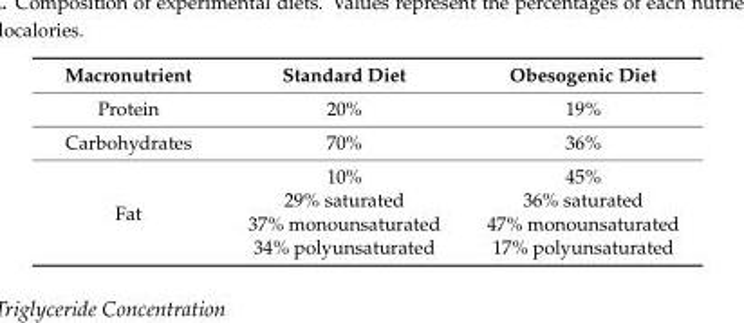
<table><thead><tr><td>Macronutrient</td><td>Standard Diet</td><td>Obesogenic Diet</td></tr></thead><tbody><tr><td>Protein</td><td>20%</td><td>19%</td></tr><tr><td>Carbohydrates</td><td>70%</td><td>36%</td></tr><tr><td rowspan="4">Fat</td><td>10%</td><td>45%</td></tr><tr><td>29% saturated</td><td>36% saturated</td></tr><tr><td>37% monounsaturated</td><td>47% monounsaturated</td></tr><tr><td>34% polyunsaturated</td><td>17% polyunsaturated</td></tr></tbody></table>